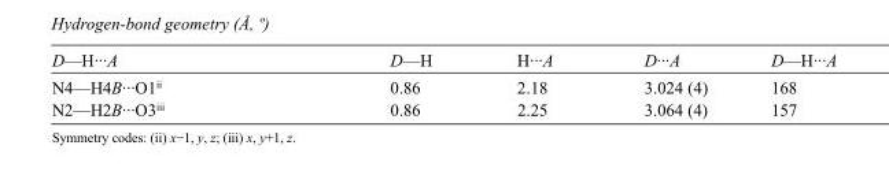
<table><tbody><tr><td>D—H···A</td><td>D—H</td><td>H···A</td><td>D···A</td><td>D—H···A</td></tr><tr><td>N4—H4B···O1<sup>ii</sup></td><td>0.86</td><td>2.18</td><td>3.024 (4)</td><td>168</td></tr><tr><td>N2—H2B···O3<sup>iii</sup></td><td>0.86</td><td>2.25</td><td>3.064 (4)</td><td>157</td></tr></tbody></table>